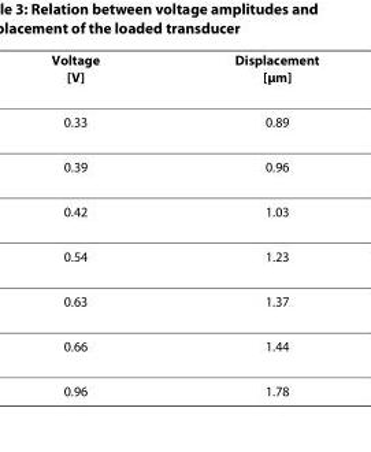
<table><thead><tr><td>Voltage [V]</td><td>Displacement [μm]</td></tr></thead><tbody><tr><td>0.33</td><td>0.89</td></tr><tr><td>0.39</td><td>0.96</td></tr><tr><td>0.42</td><td>1.03</td></tr><tr><td>0.54</td><td>1.23</td></tr><tr><td>0.63</td><td>1.37</td></tr><tr><td>0.66</td><td>1.44</td></tr><tr><td>0.96</td><td>1.78</td></tr></tbody></table>